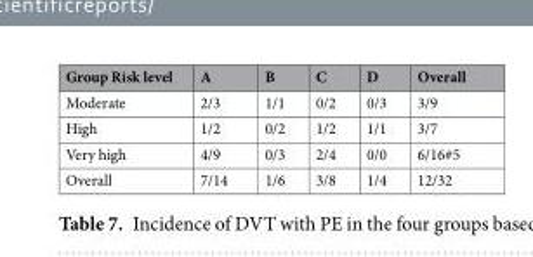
<table><thead><tr><td>Group Risk level</td><td>A</td><td>B</td><td>C</td><td>D</td><td>Overall</td></tr></thead><tbody><tr><td>Moderate</td><td>2/3</td><td>1/1</td><td>0/2</td><td>0/3</td><td>3/9</td></tr><tr><td>High</td><td>1/2</td><td>0/2</td><td>1/2</td><td>1/1</td><td>3/7</td></tr><tr><td>Very high</td><td>4/9</td><td>0/3</td><td>2/4</td><td>0/0</td><td>6/16#5</td></tr><tr><td>Overall</td><td>7/14</td><td>1/6</td><td>3/8</td><td>1/4</td><td>12/32</td></tr></tbody></table>